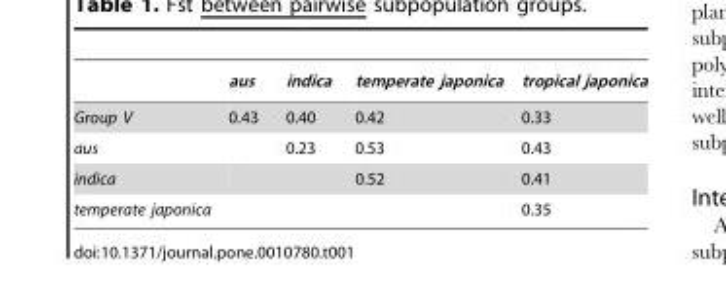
<table><thead><tr><td></td><td>aus</td><td>indica</td><td>temperate japonica</td><td>tropical japonica</td></tr></thead><tbody><tr><td>Group V</td><td>0.43</td><td>0.40</td><td>0.42</td><td>0.33</td></tr><tr><td>aus</td><td></td><td>0.23</td><td>0.53</td><td>0.43</td></tr><tr><td>indica</td><td></td><td></td><td>0.52</td><td>0.41</td></tr><tr><td>temperate japonica</td><td></td><td></td><td></td><td>0.35</td></tr></tbody></table>